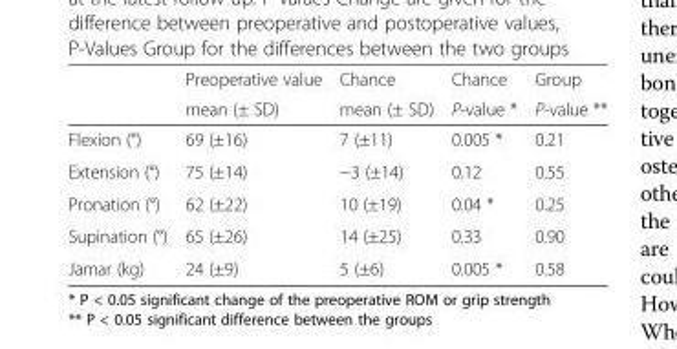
<table><thead><tr><td rowspan="2"></td><td rowspan="2">Preoperative value mean (± SD)</td><td rowspan="2">Chance mean (± SD)</td><td rowspan="2">Chance P-value *</td><td rowspan="2">Group P-value **</td></tr><tr></tr></thead><tbody><tr><td>Flexion (°)</td><td>69 (±16)</td><td>7 (±11)</td><td>0.005 *</td><td>0.21</td></tr><tr><td>Extension (°)</td><td>75 (±14)</td><td>−3 (±14)</td><td>0.12</td><td>0.55</td></tr><tr><td>Pronation (°)</td><td>62 (±22)</td><td>10 (±19)</td><td>0.04 *</td><td>0.25</td></tr><tr><td>Supination (°)</td><td>65 (±26)</td><td>14 (±25)</td><td>0.33</td><td>0.90</td></tr><tr><td>Jamar (kg)</td><td>24 (±9)</td><td>5 (±6)</td><td>0.005 *</td><td>0.58</td></tr></tbody></table>